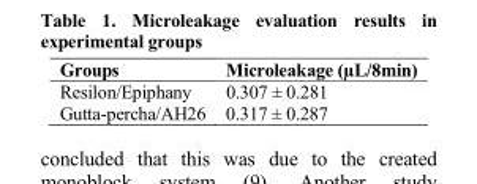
<table><thead><tr><td>Groups</td><td>Microleakage (µL/8min)</td></tr></thead><tbody><tr><td>Resilon/Epiphany</td><td>0.307 ± 0.281</td></tr><tr><td>Gutta-percha/AH26</td><td>0.317 ± 0.287</td></tr></tbody></table>